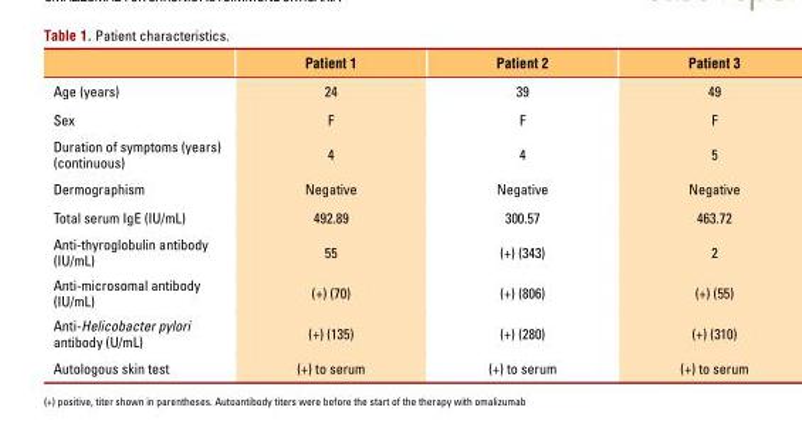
<table><thead><tr><td></td><td>Patient 1</td><td>Patient 2</td><td>Patient 3</td></tr></thead><tbody><tr><td>Age (years)</td><td>24</td><td>39</td><td>49</td></tr><tr><td>Sex</td><td>F</td><td>F</td><td>F</td></tr><tr><td>Duration of symptoms (years) (continuous)</td><td>4</td><td>4</td><td>5</td></tr><tr><td>Dermographism</td><td>Negative</td><td>Negative</td><td>Negative</td></tr><tr><td>Total serum IgE (IU/mL)</td><td>492.89</td><td>300.57</td><td>463.72</td></tr><tr><td>Anti-thyroglobulin antibody (IU/mL)</td><td>55</td><td>(+) (343)</td><td>2</td></tr><tr><td>Anti-microsomal antibody (IU/mL)</td><td>(+) (70)</td><td>(+) (806)</td><td>(+) (55)</td></tr><tr><td>Anti-Helicobacter pylori antibody (U/mL)</td><td>(+) (135)</td><td>(+) (280)</td><td>(+) (310)</td></tr><tr><td>Autologous skin test</td><td>(+) to serum</td><td>(+) to serum</td><td>(+) to serum</td></tr></tbody></table>